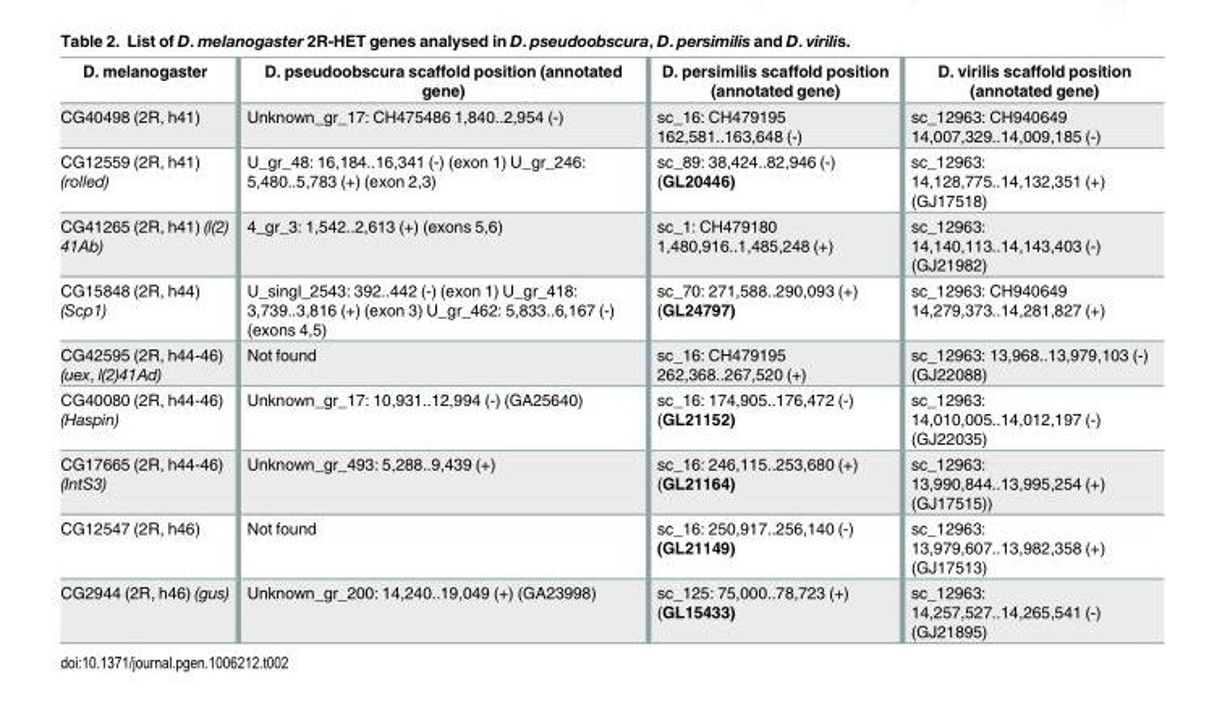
<table><thead><tr><td>D. melanogaster</td><td>D. pseudoobscura scaffold position (annotated gene)</td><td>D. persimilis scaffold position (annotated gene)</td><td>D. virilis scaffold position (annotated gene)</td></tr></thead><tbody><tr><td>CG40498 (2R, h41)</td><td>Unknown_gr_17: CH475486 1,840..2,954 (-)</td><td>sc_16: CH479195 162,581..163,648 (-)</td><td>sc_12963: CH940649 14,007,329..14,009,185 (-)</td></tr><tr><td>CG12559 (2R, h41) (rolled)</td><td>U_gr_48: 16,184..16,341 (-) (exon 1) U_gr_246: 5,480..5,783 (+) (exon 2,3)</td><td>sc_89: 38,424..82,946 (-) (GL20446)</td><td>sc_12963: 14,128,775..14,132,351 (+) (GJ17518)</td></tr><tr><td>CG41265 (2R, h41) (l(2) 41Ab)</td><td>4_gr_3: 1,542..2,613 (+) (exons 5,6)</td><td>sc_1: CH479180 1,480,916..1,485,248 (+)</td><td>sc_12963: 14,140,113..14,143,403 (-) (GJ21982)</td></tr><tr><td>CG15848 (2R, h44) (Scp1)</td><td>U_singl_2543: 392..442 (-) (exon 1) U_gr_418: 3,739..3,816 (+) (exon 3) U_gr_462: 5,833..6,167 (-) (exons 4,5)</td><td>sc_70: 271,588..290,093 (+) (GL24797)</td><td>sc_12963: CH940649 14,279,373..14,281,827 (+)</td></tr><tr><td>CG42595 (2R, h44-46) (uex, l(2)41Ad)</td><td>Not found</td><td>sc_16: CH479195 262,368..267,520 (+)</td><td>sc_12963: 13,968..13,979,103 (-) (GJ22088)</td></tr><tr><td>CG40080 (2R, h44-46) (Haspin)</td><td>Unknown_gr_17: 10,931..12,994 (-) (GA25640)</td><td>sc_16: 174,905..176,472 (-) (GL21152)</td><td>sc_12963: 14,010,005..14,012,197 (-) (GJ22035)</td></tr><tr><td>CG17665 (2R, h44-46) (IntS3)</td><td>Unknown_gr_493: 5,288..9,439 (+)</td><td>sc_16: 246,115..253,680 (+) (GL21164)</td><td>sc_12963: 13,990,844..13,995,254 (+) (GJ17515))</td></tr><tr><td>CG12547 (2R, h46)</td><td>Not found</td><td>sc_16: 250,917..256,140 (-) (GL21149)</td><td>sc_12963: 13,979,607..13,982,358 (+) (GJ17513)</td></tr><tr><td>CG2944 (2R, h46) (gus)</td><td>Unknown_gr_200: 14,240..19,049 (+) (GA23998)</td><td>sc_125: 75,000..78,723 (+) (GL15433)</td><td>sc_12963: 14,257,527..14,265,541 (-) (GJ21895)</td></tr></tbody></table>